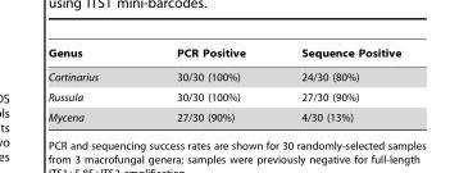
<table><thead><tr><td>Genus</td><td>PCR Positive</td><td>Sequence Positive</td></tr></thead><tbody><tr><td>Cortinarius</td><td>30/30 (100%)</td><td>24/30 (80%)</td></tr><tr><td>Russula</td><td>30/30 (100%)</td><td>27/30 (90%)</td></tr><tr><td>Mycena</td><td>27/30 (90%)</td><td>4/30 (13%)</td></tr></tbody></table>